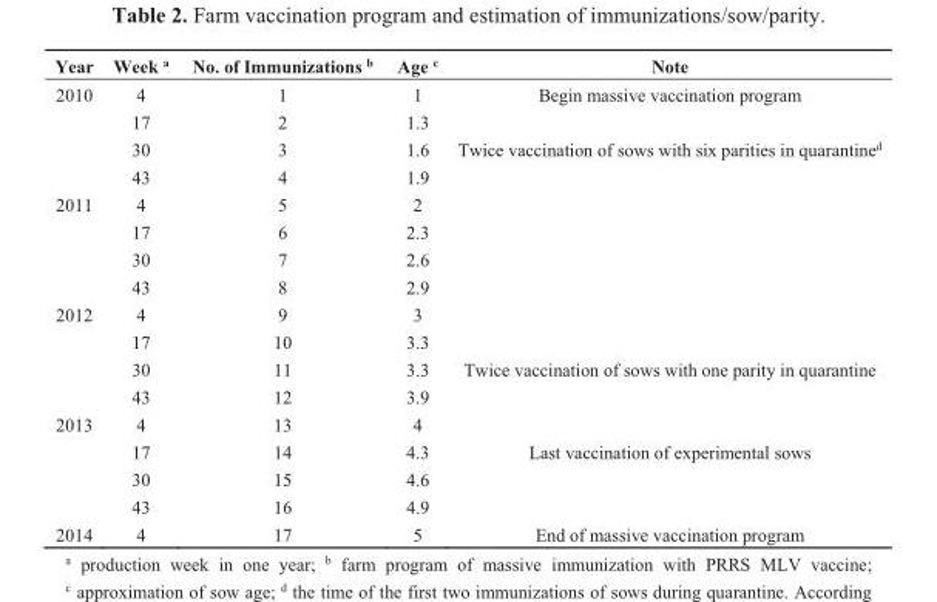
<table><thead><tr><td>Year</td><td>Week <sup>a</sup></td><td>No. of Immunizations <sup>b</sup></td><td>Age <sup>c</sup></td><td>Note</td></tr></thead><tbody><tr><td rowspan="4">2010</td><td>4</td><td>1</td><td>1</td><td>Begin massive vaccination program</td></tr><tr><td>17</td><td>2</td><td>1.3</td><td></td></tr><tr><td>30</td><td>3</td><td>1.6</td><td>Twice vaccination of sows with six parities in quarantine<sup>d</sup></td></tr><tr><td>43</td><td>4</td><td>1.9</td><td></td></tr><tr><td rowspan="4">2011</td><td>4</td><td>5</td><td>2</td><td></td></tr><tr><td>17</td><td>6</td><td>2.3</td><td></td></tr><tr><td>30</td><td>7</td><td>2.6</td><td></td></tr><tr><td>43</td><td>8</td><td>2.9</td><td></td></tr><tr><td rowspan="4">2012</td><td>4</td><td>9</td><td>3</td><td></td></tr><tr><td>17</td><td>10</td><td>3.3</td><td></td></tr><tr><td>30</td><td>11</td><td>3.3</td><td>Twice vaccination of sows with one parity in quarantine</td></tr><tr><td>43</td><td>12</td><td>3.9</td><td></td></tr><tr><td rowspan="4">2013</td><td>4</td><td>13</td><td>4</td><td></td></tr><tr><td>17</td><td>14</td><td>4.3</td><td>Last vaccination of experimental sows</td></tr><tr><td>30</td><td>15</td><td>4.6</td><td></td></tr><tr><td>43</td><td>16</td><td>4.9</td><td></td></tr><tr><td>2014</td><td>4</td><td>17</td><td>5</td><td>End of massive vaccination program</td></tr></tbody></table>